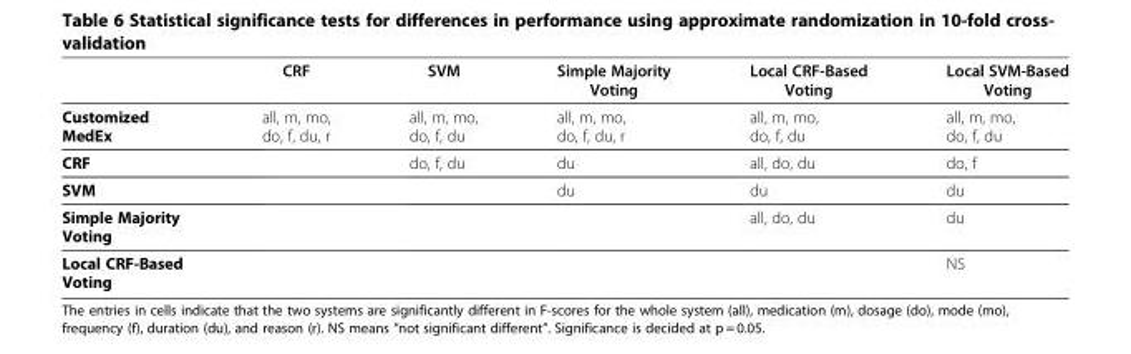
<table><thead><tr><td></td><td>CRF</td><td>SVM</td><td>Simple Majority Voting</td><td>Local CRF-Based Voting</td><td>Local SVM-Based Voting</td></tr></thead><tbody><tr><td>Customized MedEx</td><td>all, m, mo, do, f, du, r</td><td>all, m, mo, do, f, du</td><td>all, m, mo, do, f, du, r</td><td>all, m, mo, do, f, du</td><td>all, m, mo, do, f, du</td></tr><tr><td>CRF</td><td></td><td>do, f, du</td><td>du</td><td>all, do, du</td><td>do, f</td></tr><tr><td>SVM</td><td></td><td></td><td>du</td><td>du</td><td>du</td></tr><tr><td>Simple Majority Voting</td><td></td><td></td><td></td><td>all, do, du</td><td>du</td></tr><tr><td>Local CRF-Based Voting</td><td></td><td></td><td></td><td></td><td>NS</td></tr></tbody></table>